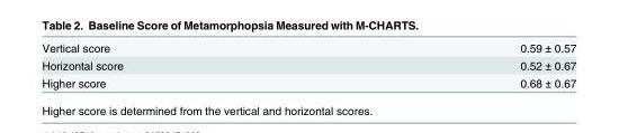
<table><tbody><tr><td>Vertical score</td><td>0.59 ± 0.57</td></tr><tr><td>Horizontal score</td><td>0.52 ± 0.67</td></tr><tr><td>Higher score</td><td>0.68 ± 0.67</td></tr></tbody></table>